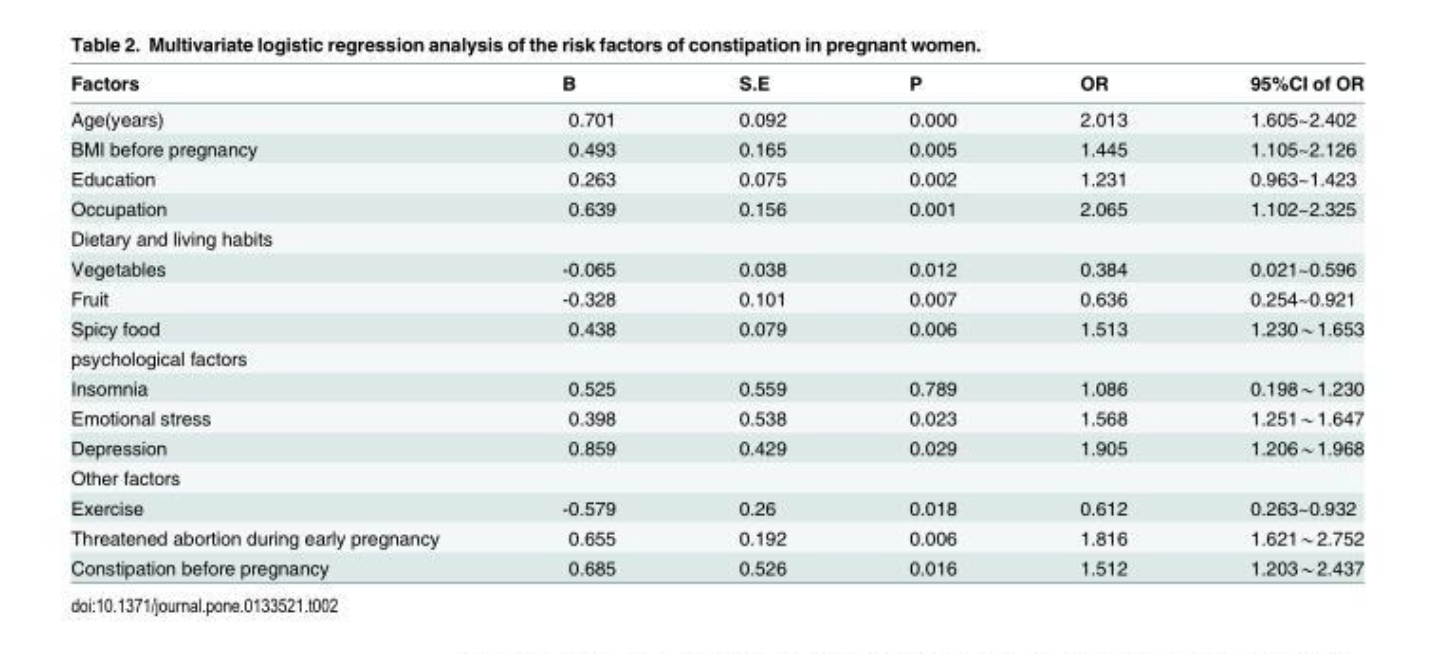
<table><thead><tr><td>Factors</td><td>B</td><td>S.E</td><td>P</td><td>OR</td><td>95%CI of OR</td></tr></thead><tbody><tr><td>Age(years)</td><td>0.701</td><td>0.092</td><td>0.000</td><td>2.013</td><td>1.605~2.402</td></tr><tr><td>BMI before pregnancy</td><td>0.493</td><td>0.165</td><td>0.005</td><td>1.445</td><td>1.105~2.126</td></tr><tr><td>Education</td><td>0.263</td><td>0.075</td><td>0.002</td><td>1.231</td><td>0.963~1.423</td></tr><tr><td>Occupation</td><td>0.639</td><td>0.156</td><td>0.001</td><td>2.065</td><td>1.102~2.325</td></tr><tr><td colspan="6">Dietary and living habits</td></tr><tr><td>Vegetables</td><td>-0.065</td><td>0.038</td><td>0.012</td><td>0.384</td><td>0.021~0.596</td></tr><tr><td>Fruit</td><td>-0.328</td><td>0.101</td><td>0.007</td><td>0.636</td><td>0.254~0.921</td></tr><tr><td>Spicy food</td><td>0.438</td><td>0.079</td><td>0.006</td><td>1.513</td><td>1.230*1.653</td></tr><tr><td colspan="6">psychological factors</td></tr><tr><td>Insomnia</td><td>0.525</td><td>0.559</td><td>0.789</td><td>1.086</td><td>0.198*1.230</td></tr><tr><td>Emotional stress</td><td>0.398</td><td>0.538</td><td>0.023</td><td>1.568</td><td>1.251*1.647</td></tr><tr><td>Depression</td><td>0.859</td><td>0.429</td><td>0.029</td><td>1.905</td><td>1.206*1.968</td></tr><tr><td colspan="6">Other factors</td></tr><tr><td>Exercise</td><td>-0.579</td><td>0.26</td><td>0.018</td><td>0.612</td><td>0.263~0.932</td></tr><tr><td>Threatened abortion during early pregnancy</td><td>0.655</td><td>0.192</td><td>0.006</td><td>1.816</td><td>1.621*2.752</td></tr><tr><td>Constipation before pregnancy</td><td>0.685</td><td>0.526</td><td>0.016</td><td>1.512</td><td>1.203*2.437</td></tr></tbody></table>